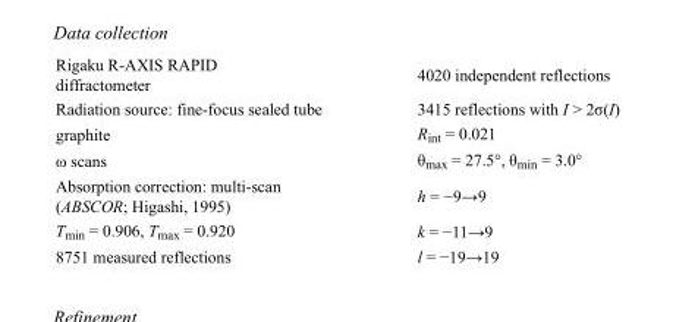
<table><tbody><tr><td>Rigaku R-AXIS RAPID diffractometer</td><td>4020 independent reflections</td></tr><tr><td>Radiation source: fine-focus sealed tube</td><td>3415 reflections with I &gt; 2σ(I)</td></tr><tr><td>graphite</td><td>R<sub>int</sub> = 0.021</td></tr><tr><td>ω scans</td><td>θ<sub>max</sub> = 27.5°, θ<sub>min</sub> = 3.0°</td></tr><tr><td>Absorption correction: multi-scan (ABSCOR; Higashi, 1995)</td><td>h = −9→9</td></tr><tr><td>T<sub>min</sub> = 0.906, T<sub>max</sub> = 0.920</td><td>k = −11→9</td></tr><tr><td>8751 measured reflections</td><td>l = −19→19</td></tr></tbody></table>